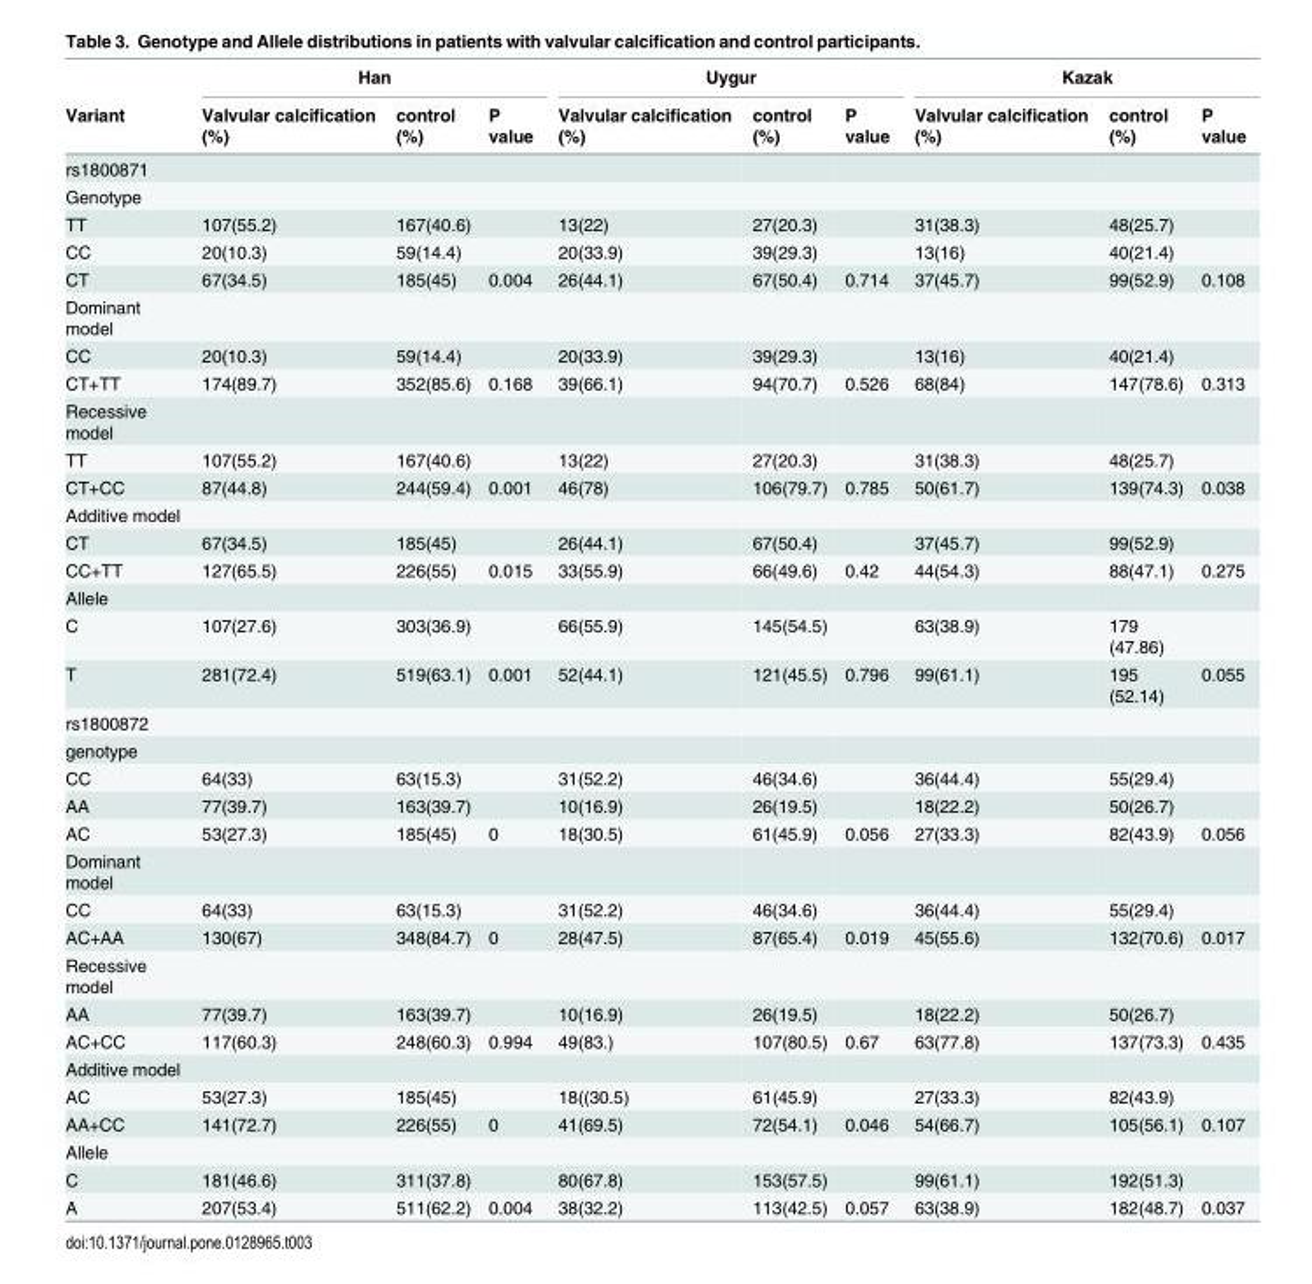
<table><thead><tr><td rowspan="2">Variant</td><td colspan="3">Han</td><td colspan="3">Uygur</td><td colspan="3">Kazak</td></tr><tr><td>Valvular calcification (%)</td><td>control (%)</td><td>P value</td><td>Valvular calcification (%)</td><td>control (%)</td><td>P value</td><td>Valvular calcification (%)</td><td>control (%)</td><td>P value</td></tr></thead><tbody><tr><td colspan="10">rs1800871</td></tr><tr><td colspan="10">Genotype</td></tr><tr><td>TT</td><td>107(55.2)</td><td>167(40.6)</td><td></td><td>13(22)</td><td>27(20.3)</td><td></td><td>31(38.3)</td><td>48(25.7)</td><td></td></tr><tr><td>CC</td><td>20(10.3)</td><td>59(14.4)</td><td></td><td>20(33.9)</td><td>39(29.3)</td><td></td><td>13(16)</td><td>40(21.4)</td><td></td></tr><tr><td>CT</td><td>67(34.5)</td><td>185(45)</td><td>0.004</td><td>26(44.1)</td><td>67(50.4)</td><td>0.714</td><td>37(45.7)</td><td>99(52.9)</td><td>0.108</td></tr><tr><td colspan="10">Dominant model</td></tr><tr><td>CC</td><td>20(10.3)</td><td>59(14.4)</td><td></td><td>20(33.9)</td><td>39(29.3)</td><td></td><td>13(16)</td><td>40(21.4)</td><td></td></tr><tr><td>CT+TT</td><td>174(89.7)</td><td>352(85.6)</td><td>0.168</td><td>39(66.1)</td><td>94(70.7)</td><td>0.526</td><td>68(84)</td><td>147(78.6)</td><td>0.313</td></tr><tr><td colspan="10">Recessive model</td></tr><tr><td>TT</td><td>107(55.2)</td><td>167(40.6)</td><td></td><td>13(22)</td><td>27(20.3)</td><td></td><td>31(38.3)</td><td>48(25.7)</td><td></td></tr><tr><td>CT+CC</td><td>87(44.8)</td><td>244(59.4)</td><td>0.001</td><td>46(78)</td><td>106(79.7)</td><td>0.785</td><td>50(61.7)</td><td>139(74.3)</td><td>0.038</td></tr><tr><td colspan="10">Additive model</td></tr><tr><td>CT</td><td>67(34.5)</td><td>185(45)</td><td></td><td>26(44.1)</td><td>67(50.4)</td><td></td><td>37(45.7)</td><td>99(52.9)</td><td></td></tr><tr><td>CC+TT</td><td>127(65.5)</td><td>226(55)</td><td>0.015</td><td>33(55.9)</td><td>66(49.6)</td><td>0.42</td><td>44(54.3)</td><td>88(47.1)</td><td>0.275</td></tr><tr><td colspan="10">Allele</td></tr><tr><td>C</td><td>107(27.6)</td><td>303(36.9)</td><td></td><td>66(55.9)</td><td>145(54.5)</td><td></td><td>63(38.9)</td><td>179 (47.86)</td><td></td></tr><tr><td>T</td><td>281(72.4)</td><td>519(63.1)</td><td>0.001</td><td>52(44.1)</td><td>121(45.5)</td><td>0.796</td><td>99(61.1)</td><td>195 (52.14)</td><td>0.055</td></tr><tr><td colspan="10">rs1800872</td></tr><tr><td colspan="10">genotype</td></tr><tr><td>CC</td><td>64(33)</td><td>63(15.3)</td><td></td><td>31(52.2)</td><td>46(34.6)</td><td></td><td>36(44.4)</td><td>55(29.4)</td><td></td></tr><tr><td>AA</td><td>77(39.7)</td><td>163(39.7)</td><td></td><td>10(16.9)</td><td>26(19.5)</td><td></td><td>18(22.2)</td><td>50(26.7)</td><td></td></tr><tr><td>AC</td><td>53(27.3)</td><td>185(45)</td><td>0</td><td>18(30.5)</td><td>61(45.9)</td><td>0.056</td><td>27(33.3)</td><td>82(43.9)</td><td>0.056</td></tr><tr><td colspan="10">Dominant model</td></tr><tr><td>CC</td><td>64(33)</td><td>63(15.3)</td><td></td><td>31(52.2)</td><td>46(34.6)</td><td></td><td>36(44.4)</td><td>55(29.4)</td><td></td></tr><tr><td>AC+AA</td><td>130(67)</td><td>348(84.7)</td><td>0</td><td>28(47.5)</td><td>87(65.4)</td><td>0.019</td><td>45(55.6)</td><td>132(70.6)</td><td>0.017</td></tr><tr><td colspan="10">Recessive model</td></tr><tr><td>AA</td><td>77(39.7)</td><td>163(39.7)</td><td></td><td>10(16.9)</td><td>26(19.5)</td><td></td><td>18(22.2)</td><td>50(26.7)</td><td></td></tr><tr><td>AC+CC</td><td>117(60.3)</td><td>248(60.3)</td><td>0.994</td><td>49(83.)</td><td>107(80.5)</td><td>0.67</td><td>63(77.8)</td><td>137(73.3)</td><td>0.435</td></tr><tr><td colspan="10">Additive model</td></tr><tr><td>AC</td><td>53(27.3)</td><td>185(45)</td><td></td><td>18((30.5)</td><td>61(45.9)</td><td></td><td>27(33.3)</td><td>82(43.9)</td><td></td></tr><tr><td>AA+CC</td><td>141(72.7)</td><td>226(55)</td><td>0</td><td>41(69.5)</td><td>72(54.1)</td><td>0.046</td><td>54(66.7)</td><td>105(56.1)</td><td>0.107</td></tr><tr><td colspan="10">Allele</td></tr><tr><td>C</td><td>181(46.6)</td><td>311(37.8)</td><td></td><td>80(67.8)</td><td>153(57.5)</td><td></td><td>99(61.1)</td><td>192(51.3)</td><td></td></tr><tr><td>A</td><td>207(53.4)</td><td>511(62.2)</td><td>0.004</td><td>38(32.2)</td><td>113(42.5)</td><td>0.057</td><td>63(38.9)</td><td>182(48.7)</td><td>0.037</td></tr></tbody></table>